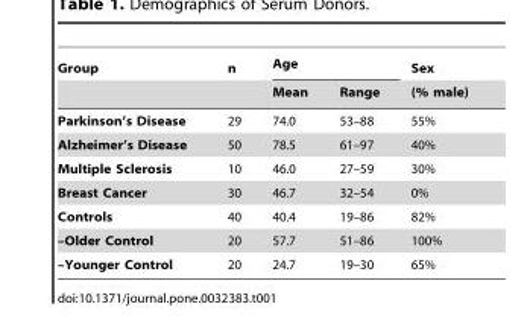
<table><thead><tr><td rowspan="2">Group</td><td rowspan="2">n</td><td colspan="2">Age</td><td rowspan="2">Sex (% male)</td></tr><tr><td>Mean</td><td>Range</td></tr></thead><tbody><tr><td>Parkinson’s Disease</td><td>29</td><td>74.0</td><td>53–88</td><td>55%</td></tr><tr><td>Alzheimer’s Disease</td><td>50</td><td>78.5</td><td>61–97</td><td>40%</td></tr><tr><td>Multiple Sclerosis</td><td>10</td><td>46.0</td><td>27–59</td><td>30%</td></tr><tr><td>Breast Cancer</td><td>30</td><td>46.7</td><td>32–54</td><td>0%</td></tr><tr><td>Controls</td><td>40</td><td>40.4</td><td>19–86</td><td>82%</td></tr><tr><td>–Older Control</td><td>20</td><td>57.7</td><td>51–86</td><td>100%</td></tr><tr><td>–Younger Control</td><td>20</td><td>24.7</td><td>19–30</td><td>65%</td></tr></tbody></table>